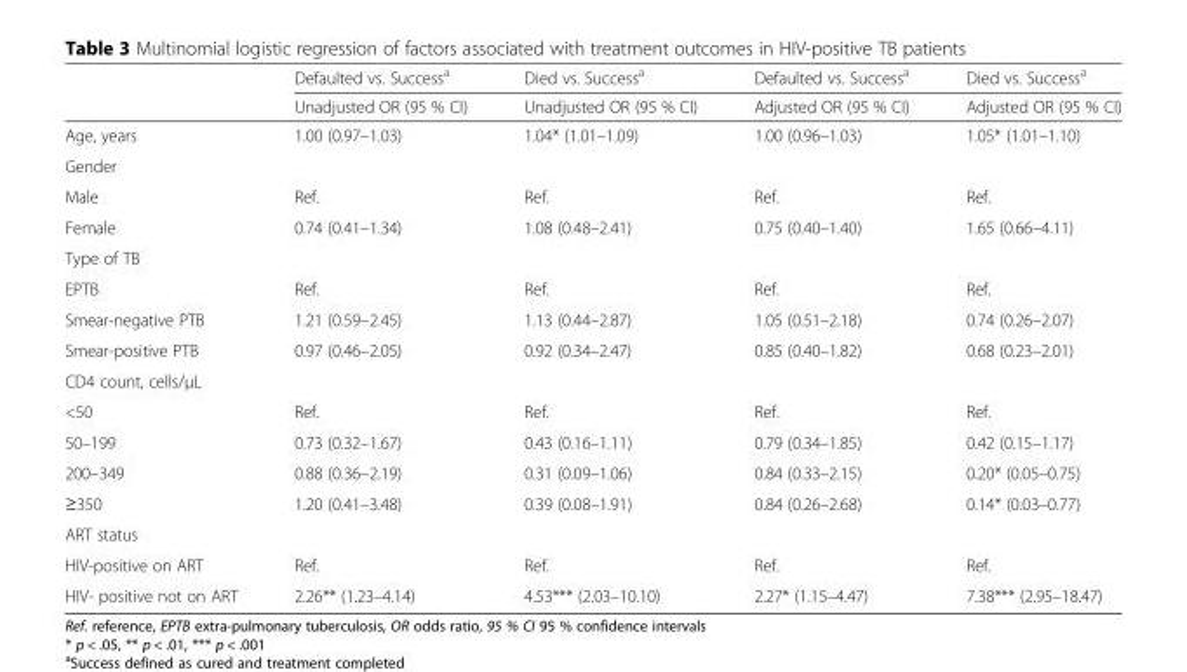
<table><thead><tr><td rowspan="2"></td><td rowspan="2">Defaulted vs. Success<sup>a</sup> Unadjusted OR (95 % CI)</td><td rowspan="2">Died vs. Success<sup>a</sup> Unadjusted OR (95 % CI)</td><td rowspan="2">Defaulted vs. Success<sup>a</sup> Adjusted OR (95 % CI)</td><td rowspan="2">Died vs. Success<sup>a</sup> Adjusted OR (95 % CI)</td></tr><tr></tr></thead><tbody><tr><td>Age, years</td><td>1.00 (0.97–1.03)</td><td>1.04* (1.01–1.09)</td><td>1.00 (0.96–1.03)</td><td>1.05* (1.01–1.10)</td></tr><tr><td colspan="5">Gender</td></tr><tr><td>Male</td><td>Ref.</td><td>Ref.</td><td>Ref.</td><td>Ref.</td></tr><tr><td>Female</td><td>0.74 (0.41–1.34)</td><td>1.08 (0.48–2.41)</td><td>0.75 (0.40–1.40)</td><td>1.65 (0.66–4.11)</td></tr><tr><td colspan="5">Type of TB</td></tr><tr><td>EPTB</td><td>Ref.</td><td>Ref.</td><td>Ref.</td><td>Ref.</td></tr><tr><td>Smear-negative PTB</td><td>1.21 (0.59–2.45)</td><td>1.13 (0.44–2.87)</td><td>1.05 (0.51–2.18)</td><td>0.74 (0.26–2.07)</td></tr><tr><td>Smear-positive PTB</td><td>0.97 (0.46–2.05)</td><td>0.92 (0.34–2.47)</td><td>0.85 (0.40–1.82)</td><td>0.68 (0.23–2.01)</td></tr><tr><td colspan="5">CD4 count, cells/μL</td></tr><tr><td>&lt;50</td><td>Ref.</td><td>Ref.</td><td>Ref.</td><td>Ref.</td></tr><tr><td>50–199</td><td>0.73 (0.32–1.67)</td><td>0.43 (0.16–1.11)</td><td>0.79 (0.34–1.85)</td><td>0.42 (0.15–1.17)</td></tr><tr><td>200–349</td><td>0.88 (0.36–2.19)</td><td>0.31 (0.09–1.06)</td><td>0.84 (0.33–2.15)</td><td>0.20* (0.05–0.75)</td></tr><tr><td>≥350</td><td>1.20 (0.41–3.48)</td><td>0.39 (0.08–1.91)</td><td>0.84 (0.26–2.68)</td><td>0.14* (0.03–0.77)</td></tr><tr><td colspan="5">ART status</td></tr><tr><td>HIV-positive on ART</td><td>Ref.</td><td>Ref.</td><td>Ref.</td><td>Ref.</td></tr><tr><td>HIV- positive not on ART</td><td>2.26** (1.23–4.14)</td><td>4.53*** (2.03–10.10)</td><td>2.27* (1.15–4.47)</td><td>7.38*** (2.95–18.47)</td></tr></tbody></table>